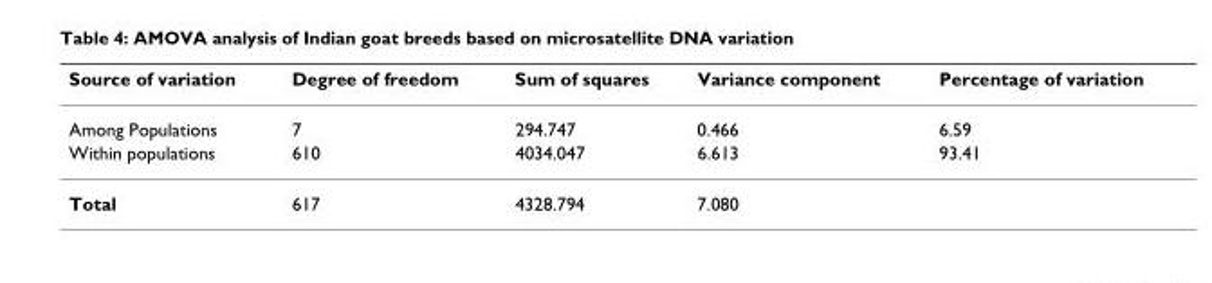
<table><thead><tr><td>Source of variation</td><td>Degree of freedom</td><td>Sum of squares</td><td>Variance component</td><td>Percentage of variation</td></tr></thead><tbody><tr><td>Among Populations</td><td>7</td><td>294.747</td><td>0.466</td><td>6.59</td></tr><tr><td>Within populations</td><td>610</td><td>4034.047</td><td>6.613</td><td>93.41</td></tr><tr><td>Total</td><td>617</td><td>4328.794</td><td>7.080</td><td></td></tr></tbody></table>